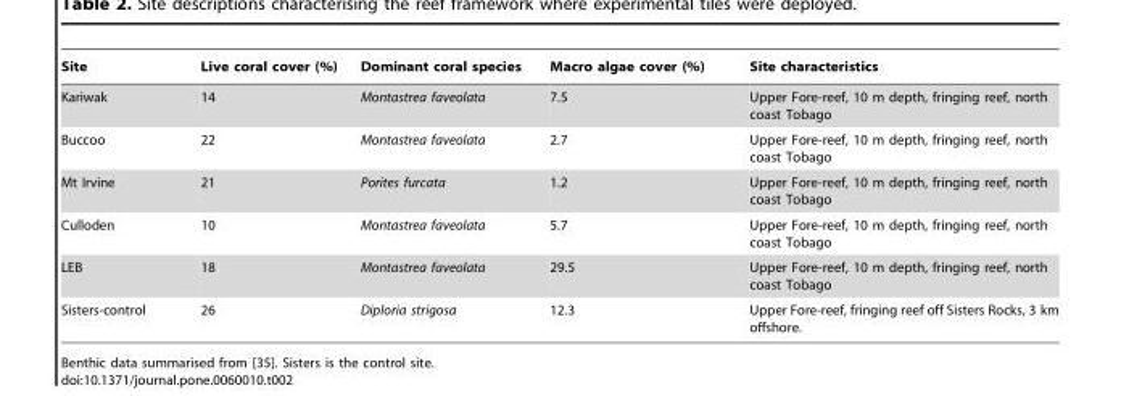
<table><thead><tr><td>Site</td><td>Live coral cover (%)</td><td>Dominant coral species</td><td>Macro algae cover (%)</td><td>Site characteristics</td></tr></thead><tbody><tr><td>Kariwak</td><td>14</td><td>Montastrea faveolata</td><td>7.5</td><td>Upper Fore-reef, 10 m depth, fringing reef, north coast Tobago</td></tr><tr><td>Buccoo</td><td>22</td><td>Montastrea faveolata</td><td>2.7</td><td>Upper Fore-reef, 10 m depth, fringing reef, north coast Tobago</td></tr><tr><td>Mt Irvine</td><td>21</td><td>Porites furcata</td><td>1.2</td><td>Upper Fore-reef, 10 m depth, fringing reef, north coast Tobago</td></tr><tr><td>Culloden</td><td>10</td><td>Montastrea faveolata</td><td>5.7</td><td>Upper Fore-reef, 10 m depth, fringing reef, north coast Tobago</td></tr><tr><td>LEB</td><td>18</td><td>Montastrea faveolata</td><td>29.5</td><td>Upper Fore-reef, 10 m depth, fringing reef, north coast Tobago</td></tr><tr><td>Sisters-control</td><td>26</td><td>Diploria strigosa</td><td>12.3</td><td>Upper Fore-reef, fringing reef off Sisters Rocks, 3 km offshore.</td></tr></tbody></table>